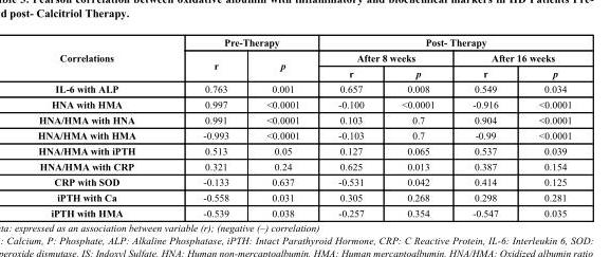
<table><thead><tr><td rowspan="3">Correlations</td><td colspan="2">Pre-Therapy</td><td colspan="4">Post- Therapy</td></tr><tr><td rowspan="2">r</td><td rowspan="2">p</td><td colspan="2">After 8 weeks</td><td colspan="2">After 16 weeks</td></tr><tr><td>r</td><td>p</td><td>r</td><td>p</td></tr></thead><tbody><tr><td>IL-6 with ALP</td><td>0.763</td><td>0.001</td><td>0.657</td><td>0.008</td><td>0.549</td><td>0.034</td></tr><tr><td>HNA with HMA</td><td>0.997</td><td>&lt;0.0001</td><td>-0.100</td><td>&lt;0.0001</td><td>-0.916</td><td>&lt;0.0001</td></tr><tr><td>HNA/HMA with HNA</td><td>0.991</td><td>&lt;0.0001</td><td>0.103</td><td>0.7</td><td>0.904</td><td>&lt;0.0001</td></tr><tr><td>HNA/HMA with HMA</td><td>-0.993</td><td>&lt;0.0001</td><td>-0.103</td><td>0.7</td><td>-0.99</td><td>&lt;0.0001</td></tr><tr><td>HNA/HMA with iPTH</td><td>0.513</td><td>0.05</td><td>0.127</td><td>0.065</td><td>0.537</td><td>0.039</td></tr><tr><td>HNA/HMA with CRP</td><td>0.321</td><td>0.24</td><td>0.625</td><td>0.013</td><td>0.387</td><td>0.154</td></tr><tr><td>CRP with SOD</td><td>-0.133</td><td>0.637</td><td>-0.531</td><td>0.042</td><td>0.414</td><td>0.125</td></tr><tr><td>iPTH with Ca</td><td>-0.558</td><td>0.031</td><td>0.305</td><td>0.268</td><td>0.298</td><td>0.281</td></tr><tr><td>iPTH with HMA</td><td>-0.539</td><td>0.038</td><td>-0.257</td><td>0.354</td><td>-0.547</td><td>0.035</td></tr></tbody></table>